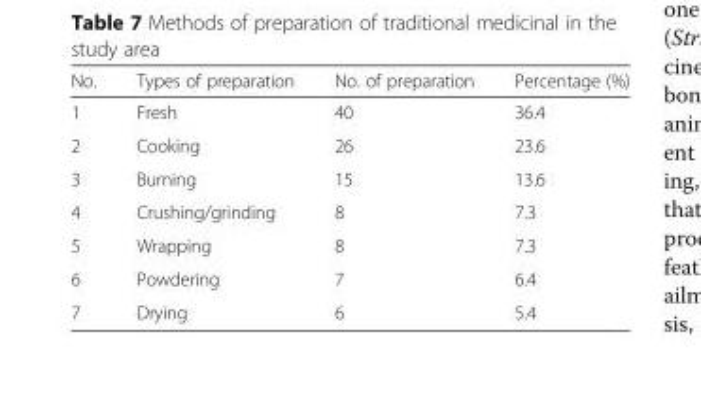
<table><thead><tr><td>No.</td><td>Types of preparation</td><td>No. of preparation</td><td>Percentage (%)</td></tr></thead><tbody><tr><td>1</td><td>Fresh</td><td>40</td><td>36.4</td></tr><tr><td>2</td><td>Cooking</td><td>26</td><td>23.6</td></tr><tr><td>3</td><td>Burning</td><td>15</td><td>13.6</td></tr><tr><td>4</td><td>Crushing/grinding</td><td>8</td><td>7.3</td></tr><tr><td>5</td><td>Wrapping</td><td>8</td><td>7.3</td></tr><tr><td>6</td><td>Powdering</td><td>7</td><td>6.4</td></tr><tr><td>7</td><td>Drying</td><td>6</td><td>5.4</td></tr></tbody></table>